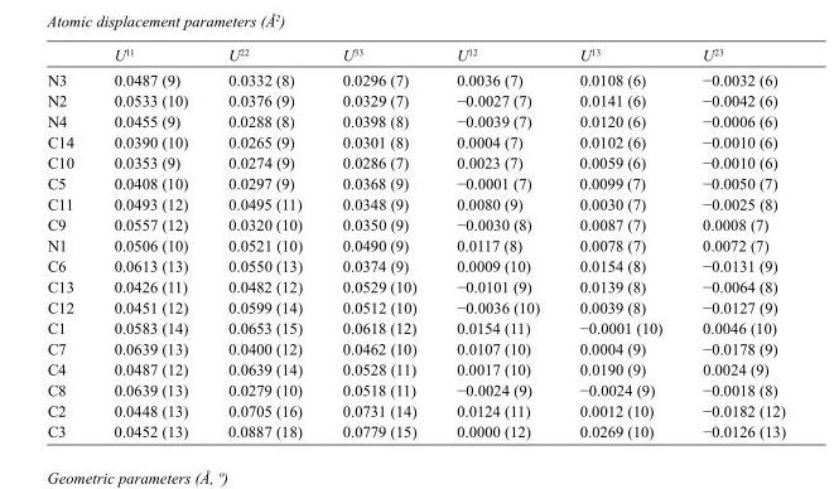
<table><thead><tr><td></td><td>U<sup>11</sup></td><td>U<sup>22</sup></td><td>U<sup>33</sup></td><td>U<sup>12</sup></td><td>U<sup>13</sup></td><td>U<sup>23</sup></td></tr></thead><tbody><tr><td>N3</td><td>0.0487 (9)</td><td>0.0332 (8)</td><td>0.0296 (7)</td><td>0.0036 (7)</td><td>0.0108 (6)</td><td>−0.0032 (6)</td></tr><tr><td>N2</td><td>0.0533 (10)</td><td>0.0376 (9)</td><td>0.0329 (7)</td><td>−0.0027 (7)</td><td>0.0141 (6)</td><td>−0.0042 (6)</td></tr><tr><td>N4</td><td>0.0455 (9)</td><td>0.0288 (8)</td><td>0.0398 (8)</td><td>−0.0039 (7)</td><td>0.0120 (6)</td><td>−0.0006 (6)</td></tr><tr><td>C14</td><td>0.0390 (10)</td><td>0.0265 (9)</td><td>0.0301 (8)</td><td>0.0004 (7)</td><td>0.0102 (6)</td><td>−0.0010 (6)</td></tr><tr><td>C10</td><td>0.0353 (9)</td><td>0.0274 (9)</td><td>0.0286 (7)</td><td>0.0023 (7)</td><td>0.0059 (6)</td><td>−0.0010 (6)</td></tr><tr><td>C5</td><td>0.0408 (10)</td><td>0.0297 (9)</td><td>0.0368 (9)</td><td>−0.0001 (7)</td><td>0.0099 (7)</td><td>−0.0050 (7)</td></tr><tr><td>C11</td><td>0.0493 (12)</td><td>0.0495 (11)</td><td>0.0348 (9)</td><td>0.0080 (9)</td><td>0.0030 (7)</td><td>−0.0025 (8)</td></tr><tr><td>C9</td><td>0.0557 (12)</td><td>0.0320 (10)</td><td>0.0350 (9)</td><td>−0.0030 (8)</td><td>0.0087 (7)</td><td>0.0008 (7)</td></tr><tr><td>N1</td><td>0.0506 (10)</td><td>0.0521 (10)</td><td>0.0490 (9)</td><td>0.0117 (8)</td><td>0.0078 (7)</td><td>0.0072 (7)</td></tr><tr><td>C6</td><td>0.0613 (13)</td><td>0.0550 (13)</td><td>0.0374 (9)</td><td>0.0009 (10)</td><td>0.0154 (8)</td><td>−0.0131 (9)</td></tr><tr><td>C13</td><td>0.0426 (11)</td><td>0.0482 (12)</td><td>0.0529 (10)</td><td>−0.0101 (9)</td><td>0.0139 (8)</td><td>−0.0064 (8)</td></tr><tr><td>C12</td><td>0.0451 (12)</td><td>0.0599 (14)</td><td>0.0512 (10)</td><td>−0.0036 (10)</td><td>0.0039 (8)</td><td>−0.0127 (9)</td></tr><tr><td>C1</td><td>0.0583 (14)</td><td>0.0653 (15)</td><td>0.0618 (12)</td><td>0.0154 (11)</td><td>−0.0001 (10)</td><td>0.0046 (10)</td></tr><tr><td>C7</td><td>0.0639 (13)</td><td>0.0400 (12)</td><td>0.0462 (10)</td><td>0.0107 (10)</td><td>0.0004 (9)</td><td>−0.0178 (9)</td></tr><tr><td>C4</td><td>0.0487 (12)</td><td>0.0639 (14)</td><td>0.0528 (11)</td><td>0.0017 (10)</td><td>0.0190 (9)</td><td>0.0024 (9)</td></tr><tr><td>C8</td><td>0.0639 (13)</td><td>0.0279 (10)</td><td>0.0518 (11)</td><td>−0.0024 (9)</td><td>−0.0024 (9)</td><td>−0.0018 (8)</td></tr><tr><td>C2</td><td>0.0448 (13)</td><td>0.0705 (16)</td><td>0.0731 (14)</td><td>0.0124 (11)</td><td>0.0012 (10)</td><td>−0.0182 (12)</td></tr><tr><td>C3</td><td>0.0452 (13)</td><td>0.0887 (18)</td><td>0.0779 (15)</td><td>0.0000 (12)</td><td>0.0269 (10)</td><td>−0.0126 (13)</td></tr></tbody></table>